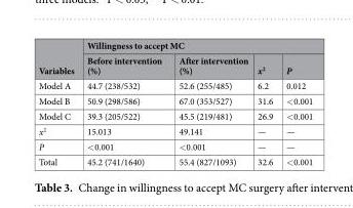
<table><thead><tr><td rowspan="2">Variables</td><td colspan="4">Willingness to accept MC</td></tr><tr><td>Before intervention (%)</td><td>After intervention (%)</td><td>x<sup>2</sup></td><td>P</td></tr></thead><tbody><tr><td>Model A</td><td>44.7 (238/532)</td><td>52.6 (255/485)</td><td>6.2</td><td>0.012</td></tr><tr><td>Model B</td><td>50.9 (298/586)</td><td>67.0 (353/527)</td><td>31.6</td><td>&lt;0.001</td></tr><tr><td>Model C</td><td>39.3 (205/522)</td><td>45.5 (219/481)</td><td>26.9</td><td>&lt;0.001</td></tr><tr><td>x<sup>2</sup></td><td>15.013</td><td>49.141</td><td>—</td><td>—</td></tr><tr><td>P</td><td>&lt;0.001</td><td>&lt;0.001</td><td>—</td><td>—</td></tr><tr><td>Total</td><td>45.2 (741/1640)</td><td>55.4 (827/1093)</td><td>32.6</td><td>&lt;0.001</td></tr></tbody></table>